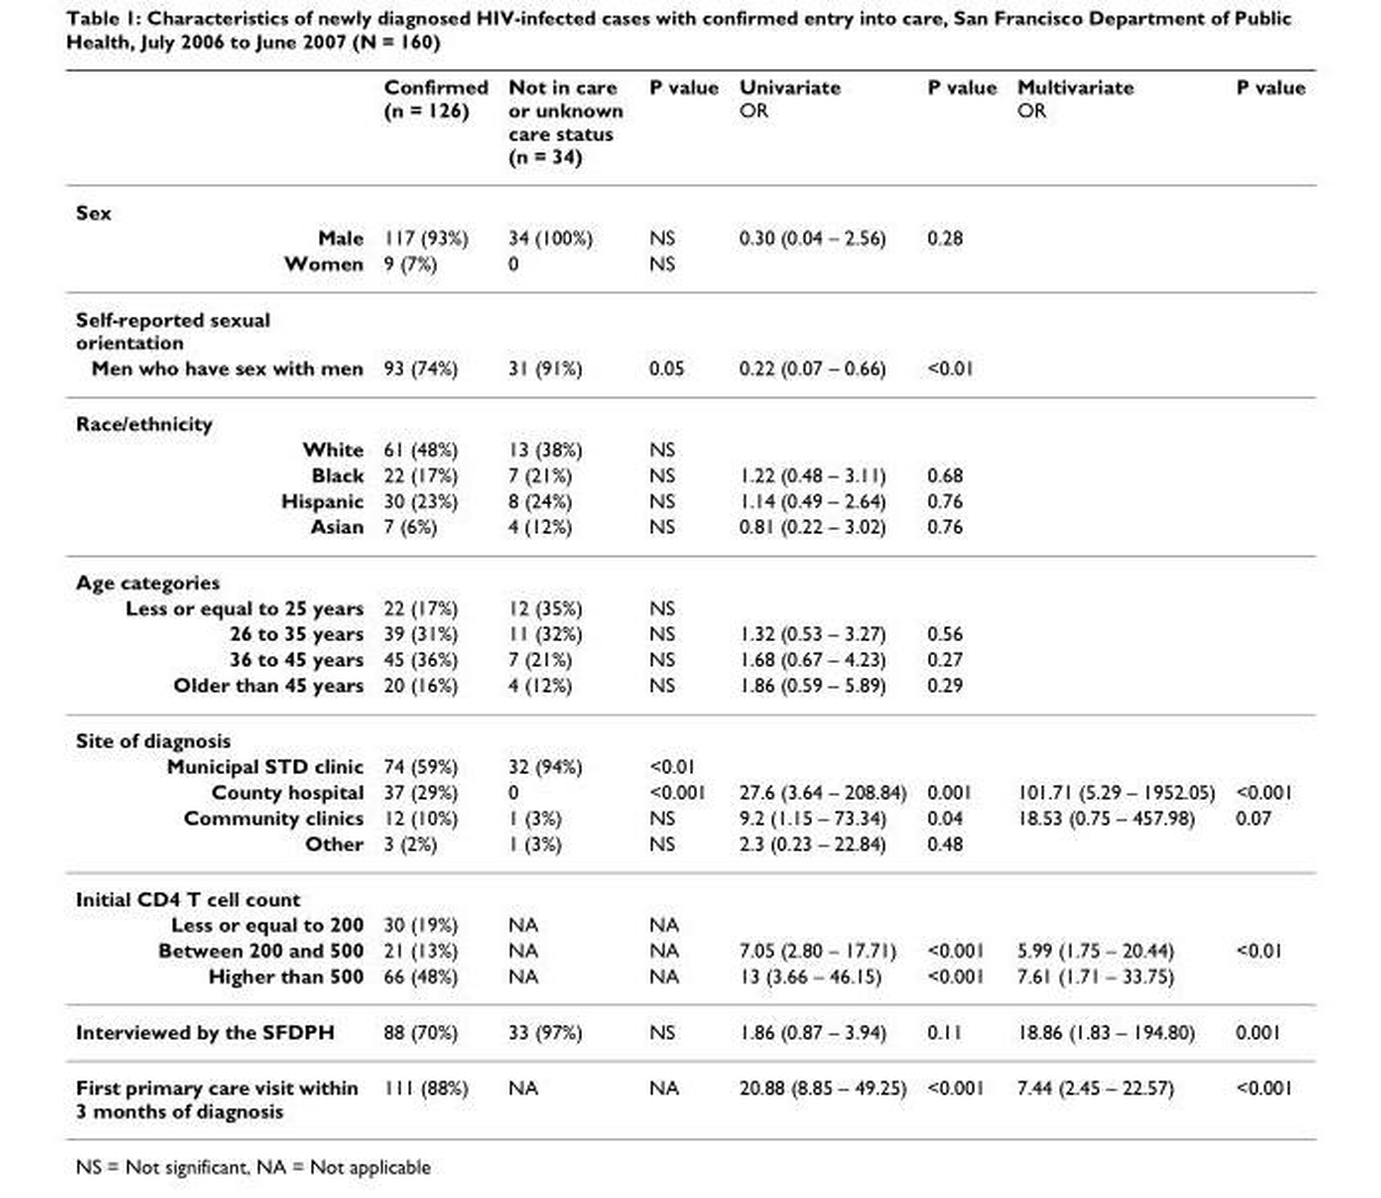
<table><thead><tr><td></td><td>Confirmed (n = 126)</td><td>Not in care or unknown care status (n = 34)</td><td>P value</td><td>Univariate OR</td><td>P value</td><td>Multivariate OR</td><td>P value</td></tr></thead><tbody><tr><td colspan="8">Sex</td></tr><tr><td>Male</td><td>117 (93%)</td><td>34 (100%)</td><td>NS</td><td>0.30 (0.04 – 2.56)</td><td>0.28</td><td></td><td></td></tr><tr><td>Women</td><td>9 (7%)</td><td>0</td><td>NS</td><td></td><td></td><td></td><td></td></tr><tr><td colspan="8">Self-reported sexual orientation</td></tr><tr><td>Men who have sex with men</td><td>93 (74%)</td><td>31 (91%)</td><td>0.05</td><td>0.22 (0.07 – 0.66)</td><td>&lt;0.01</td><td></td><td></td></tr><tr><td colspan="8">Race/ethnicity</td></tr><tr><td>White</td><td>61 (48%)</td><td>13 (38%)</td><td>NS</td><td></td><td></td><td></td><td></td></tr><tr><td>Black</td><td>22 (17%)</td><td>7 (21%)</td><td>NS</td><td>1.22 (0.48 – 3.11)</td><td>0.68</td><td></td><td></td></tr><tr><td>Hispanic</td><td>30 (23%)</td><td>8 (24%)</td><td>NS</td><td>1.14 (0.49 – 2.64)</td><td>0.76</td><td></td><td></td></tr><tr><td>Asian</td><td>7 (6%)</td><td>4 (12%)</td><td>NS</td><td>0.81 (0.22 – 3.02)</td><td>0.76</td><td></td><td></td></tr><tr><td colspan="8">Age categories</td></tr><tr><td>Less or equal to 25 years</td><td>22 (17%)</td><td>12 (35%)</td><td>NS</td><td></td><td></td><td></td><td></td></tr><tr><td>26 to 35 years</td><td>39 (31%)</td><td>11 (32%)</td><td>NS</td><td>1.32 (0.53 – 3.27)</td><td>0.56</td><td></td><td></td></tr><tr><td>36 to 45 years</td><td>45 (36%)</td><td>7 (21%)</td><td>NS</td><td>1.68 (0.67 – 4.23)</td><td>0.27</td><td></td><td></td></tr><tr><td>Older than 45 years</td><td>20 (16%)</td><td>4 (12%)</td><td>NS</td><td>1.86 (0.59 – 5.89)</td><td>0.29</td><td></td><td></td></tr><tr><td colspan="8">Site of diagnosis</td></tr><tr><td>Municipal STD clinic</td><td>74 (59%)</td><td>32 (94%)</td><td>&lt;0.01</td><td></td><td></td><td></td><td></td></tr><tr><td>County hospital</td><td>37 (29%)</td><td>0</td><td>&lt;0.001</td><td>27.6 (3.64 – 208.84)</td><td>0.001</td><td>101.71 (5.29 – 1952.05)</td><td>&lt;0.001</td></tr><tr><td>Community clinics</td><td>12 (10%)</td><td>1 (3%)</td><td>NS</td><td>9.2 (1.15 – 73.34)</td><td>0.04</td><td>18.53 (0.75 – 457.98)</td><td>0.07</td></tr><tr><td>Other</td><td>3 (2%)</td><td>1 (3%)</td><td>NS</td><td>2.3 (0.23 – 22.84)</td><td>0.48</td><td></td><td></td></tr><tr><td colspan="8">Initial CD4 T cell count</td></tr><tr><td>Less or equal to 200</td><td>30 (19%)</td><td>NA</td><td>NA</td><td></td><td></td><td></td><td></td></tr><tr><td>Between 200 and 500</td><td>21 (13%)</td><td>NA</td><td>NA</td><td>7.05 (2.80 – 17.71)</td><td>&lt;0.001</td><td>5.99 (1.75 – 20.44)</td><td>&lt;0.01</td></tr><tr><td>Higher than 500</td><td>66 (48%)</td><td>NA</td><td>NA</td><td>13 (3.66 – 46.15)</td><td>&lt;0.001</td><td>7.61 (1.71 – 33.75)</td><td></td></tr><tr><td>Interviewed by the SFDPH</td><td>88 (70%)</td><td>33 (97%)</td><td>NS</td><td>1.86 (0.87 – 3.94)</td><td>0.11</td><td>18.86 (1.83 – 194.80)</td><td>0.001</td></tr><tr><td>First primary care visit within 3 months of diagnosis</td><td>111 (88%)</td><td>NA</td><td>NA</td><td>20.88 (8.85 – 49.25)</td><td>&lt;0.001</td><td>7.44 (2.45 – 22.57)</td><td>&lt;0.001</td></tr></tbody></table>